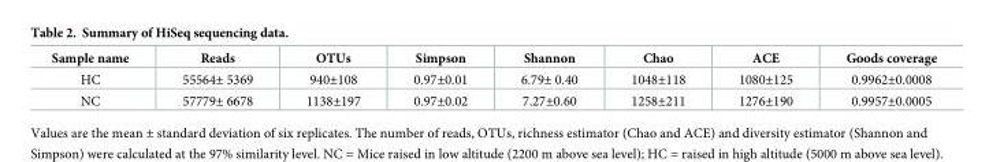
<table><thead><tr><td>Sample name</td><td>Reads</td><td>OTUs</td><td>Simpson</td><td>Shannon</td><td>Chao</td><td>ACE</td><td>Goods coverage</td></tr></thead><tbody><tr><td>HC</td><td>55564± 5369</td><td>940±108</td><td>0.97±0.01</td><td>6.79± 0.40</td><td>1048±118</td><td>1080±125</td><td>0.9962±0.0008</td></tr><tr><td>NC</td><td>57779± 6678</td><td>1138±197</td><td>0.97±0.02</td><td>7.27±0.60</td><td>1258±211</td><td>1276±190</td><td>0.9957±0.0005</td></tr></tbody></table>